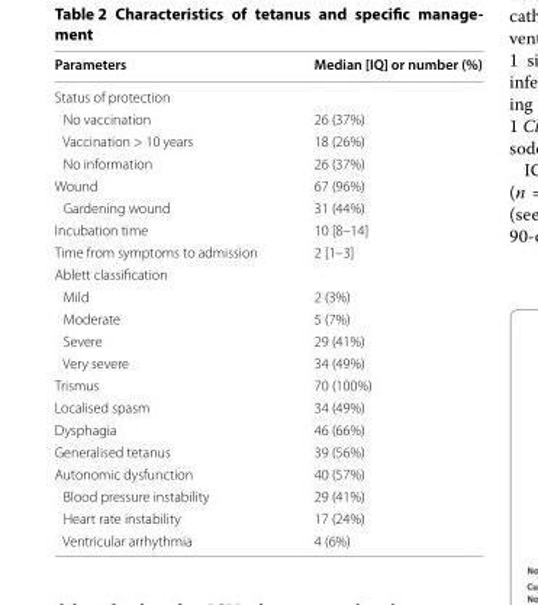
<table><thead><tr><td>Parameters</td><td>Median [IQ] or number (%)</td></tr></thead><tbody><tr><td colspan="2">Status of protection</td></tr><tr><td>No vaccination</td><td>26 (37%)</td></tr><tr><td>Vaccination &gt; 10 years</td><td>18 (26%)</td></tr><tr><td>No information</td><td>26 (37%)</td></tr><tr><td>Wound</td><td>67 (96%)</td></tr><tr><td>Gardening wound</td><td>31 (44%)</td></tr><tr><td>Incubation time</td><td>10 [8–14]</td></tr><tr><td>Time from symptoms to admission</td><td>2 [1–3]</td></tr><tr><td colspan="2">Ablett classification</td></tr><tr><td>Mild</td><td>2 (3%)</td></tr><tr><td>Moderate</td><td>5 (7%)</td></tr><tr><td>Severe</td><td>29 (41%)</td></tr><tr><td>Very severe</td><td>34 (49%)</td></tr><tr><td>Trismus</td><td>70 (100%)</td></tr><tr><td>Localised spasm</td><td>34 (49%)</td></tr><tr><td>Dysphagia</td><td>46 (66%)</td></tr><tr><td>Generalised tetanus</td><td>39 (56%)</td></tr><tr><td>Autonomic dysfunction</td><td>40 (57%)</td></tr><tr><td>Blood pressure instability</td><td>29 (41%)</td></tr><tr><td>Heart rate instability</td><td>17 (24%)</td></tr><tr><td>Ventricular arrhythmia</td><td>4 (6%)</td></tr></tbody></table>